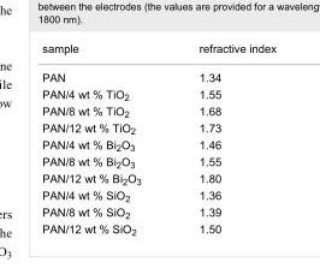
<table><tbody><tr><td>sample</td><td>refractive index</td></tr><tr><td>PAN</td><td>1.34</td></tr><tr><td>PAN/4 wt % TiO<sub>2</sub></td><td>1.55</td></tr><tr><td>PAN/8 wt % TiO<sub>2</sub></td><td>1.68</td></tr><tr><td>PAN/12 wt % TiO<sub>2</sub></td><td>1.73</td></tr><tr><td>PAN/4 wt % Bi<sub>2</sub>O<sub>3</sub></td><td>1.46</td></tr><tr><td>PAN/8 wt % Bi<sub>2</sub>O<sub>3</sub></td><td>1.55</td></tr><tr><td>PAN/12 wt % Bi<sub>2</sub>O<sub>3</sub></td><td>1.80</td></tr><tr><td>PAN/4 wt % SiO<sub>2</sub></td><td>1.36</td></tr><tr><td>PAN/8 wt % SiO<sub>2</sub></td><td>1.39</td></tr><tr><td>PAN/12 wt % SiO<sub>2</sub></td><td>1.50</td></tr></tbody></table>